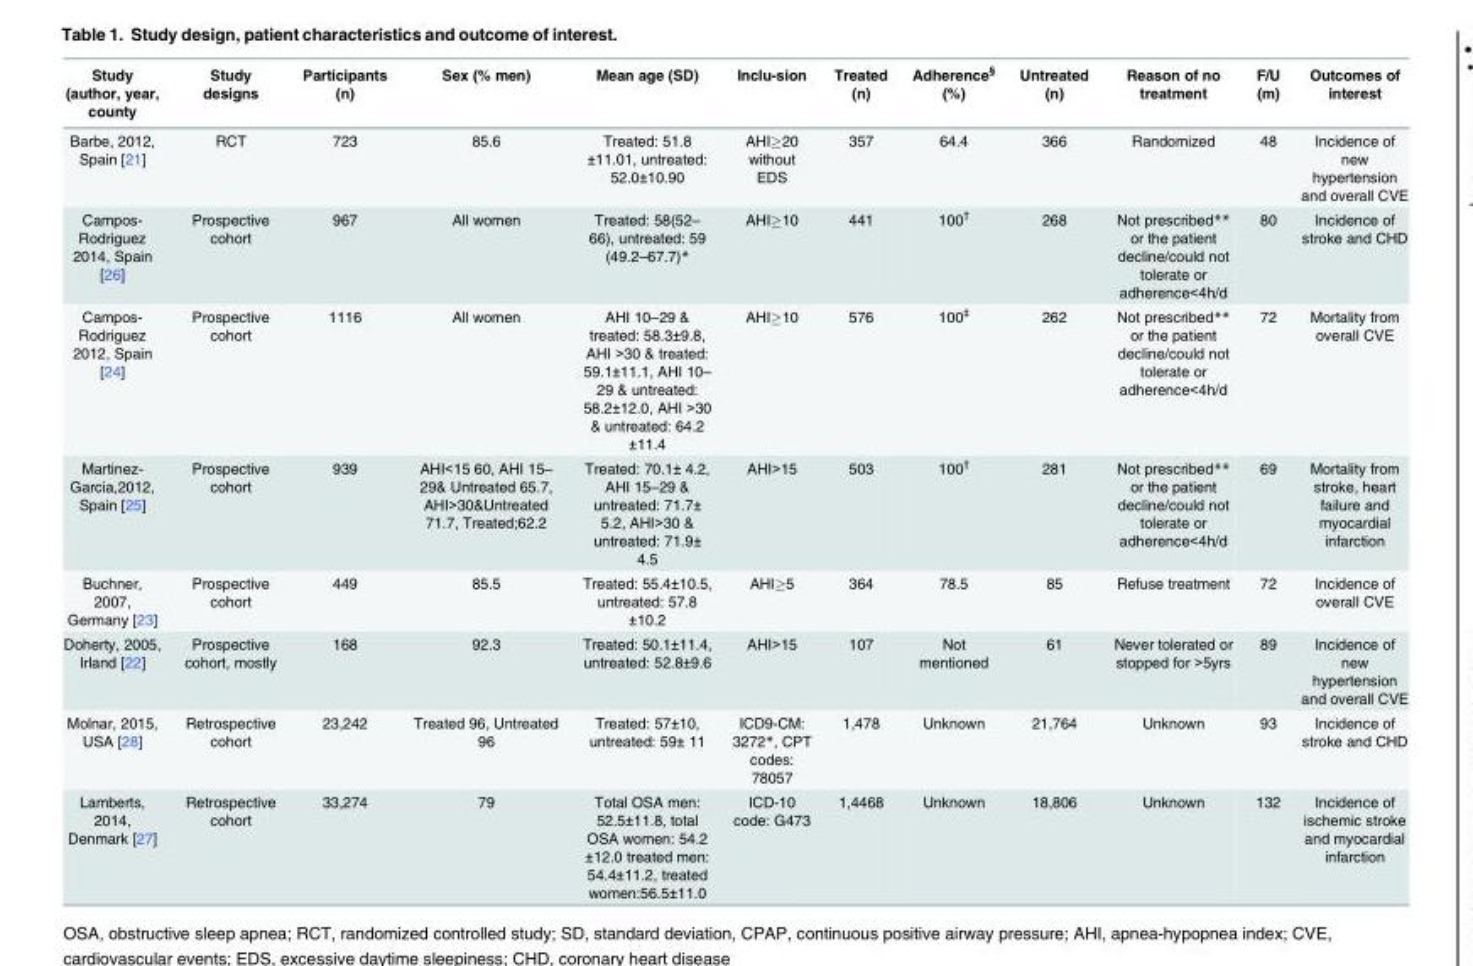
<table><thead><tr><td>Study (author, year, county</td><td>Study designs</td><td>Participants (n)</td><td>Sex (% men)</td><td>Mean age (SD)</td><td>Inclu-sion</td><td>Treated (n)</td><td>Adherence<sup>§</sup> (%)</td><td>Untreated (n)</td><td>Reason of no treatment</td><td>F/U (m)</td><td>Outcomes of interest</td></tr></thead><tbody><tr><td>Barbe, 2012, Spain [21]</td><td>RCT</td><td>723</td><td>85.6</td><td>Treated: 51.8 ±11.01, untreated: 52.0±10.90</td><td>AHI≥20 without EDS</td><td>357</td><td>64.4</td><td>366</td><td>Randomized</td><td>48</td><td>Incidence of new hypertension and overall CVE</td></tr><tr><td>Campos- Rodriguez 2014, Spain [26]</td><td>Prospective cohort</td><td>967</td><td>All women</td><td>Treated: 58(52– 66), untreated: 59 (49.2–67.7)*</td><td>AHI≥10</td><td>441</td><td>100<sup>†</sup></td><td>268</td><td>Not prescribed** or the patient decline/could not tolerate or adherence&lt;4h/d</td><td>80</td><td>Incidence of stroke and CHD</td></tr><tr><td>Campos- Rodriguez 2012, Spain [24]</td><td>Prospective cohort</td><td>1116</td><td>All women</td><td>AHI 10–29 &amp; treated: 58.3±9.8, AHI &gt;30 &amp; treated: 59.1±11.1, AHI 10– 29 &amp; untreated: 58.2±12.0, AHI &gt;30 &amp; untreated: 64.2 ±11.4</td><td>AHI≥10</td><td>576</td><td>100<sup>‡</sup></td><td>262</td><td>Not prescribed** or the patient decline/could not tolerate or adherence&lt;4h/d</td><td>72</td><td>Mortality from overall CVE</td></tr><tr><td>Martinez- Garcia,2012, Spain [25]</td><td>Prospective cohort</td><td>939</td><td>AHI&lt;15 60, AHI 15– 29&amp; Untreated 65.7, AHI&gt;30&amp;Untreated 71.7, Treated;62.2</td><td>Treated: 70.1± 4.2, AHI 15–29 &amp; untreated: 71.7± 5.2, AHI&gt;30 &amp; untreated: 71.9± 4.5</td><td>AHI&gt;15</td><td>503</td><td>100<sup>†</sup></td><td>281</td><td>Not prescribed** or the patient decline/could not tolerate or adherence&lt;4h/d</td><td>69</td><td>Mortality from stroke, heart failure and myocardial infarction</td></tr><tr><td>Buchner, 2007, Germany [23]</td><td>Prospective cohort</td><td>449</td><td>85.5</td><td>Treated: 55.4±10.5, untreated: 57.8 ±10.2</td><td>AHI≥5</td><td>364</td><td>78.5</td><td>85</td><td>Refuse treatment</td><td>72</td><td>Incidence of overall CVE</td></tr><tr><td>Doherty, 2005, Irland [22]</td><td>Prospective cohort, mostly</td><td>168</td><td>92.3</td><td>Treated: 50.1±11.4, untreated: 52.8±9.6</td><td>AHI&gt;15</td><td>107</td><td>Not mentioned</td><td>61</td><td>Never tolerated or stopped for &gt;5yrs</td><td>89</td><td>Incidence of new hypertension and overall CVE</td></tr><tr><td>Molnar, 2015, USA [28]</td><td>Retrospective cohort</td><td>23,242</td><td>Treated 96, Untreated 96</td><td>Treated: 57±10, untreated: 59± 11</td><td>ICD9-CM: 3272*, CPT codes: 78057</td><td>1,478</td><td>Unknown</td><td>21,764</td><td>Unknown</td><td>93</td><td>Incidence of stroke and CHD</td></tr><tr><td>Lamberts, 2014, Denmark [27]</td><td>Retrospective cohort</td><td>33,274</td><td>79</td><td>Total OSA men: 52.5±11.8, total OSA women: 54.2 ±12.0 treated men: 54.4±11.2, treated women:56.5±11.0</td><td>ICD-10 code: G473</td><td>1,4468</td><td>Unknown</td><td>18,806</td><td>Unknown</td><td>132</td><td>Incidence of ischemic stroke and myocardial infarction</td></tr></tbody></table>